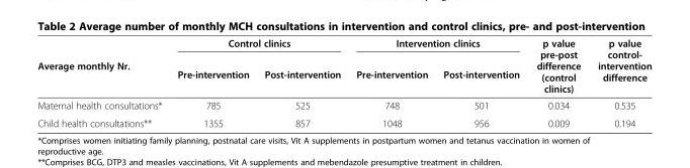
<table><thead><tr><td rowspan="2">Average monthly Nr.</td><td colspan="2">Control clinics</td><td colspan="2">Intervention clinics</td><td rowspan="2">p value pre-post difference (control clinics)</td><td rowspan="2">p value control- intervention difference</td></tr><tr><td>Pre-intervention</td><td>Post-intervention</td><td>Pre-intervention</td><td>Post-intervention</td></tr></thead><tbody><tr><td>Maternal health consultations*</td><td>785</td><td>525</td><td>748</td><td>501</td><td>0.034</td><td>0.535</td></tr><tr><td>Child health consultations**</td><td>1355</td><td>857</td><td>1048</td><td>956</td><td>0.009</td><td>0.194</td></tr></tbody></table>